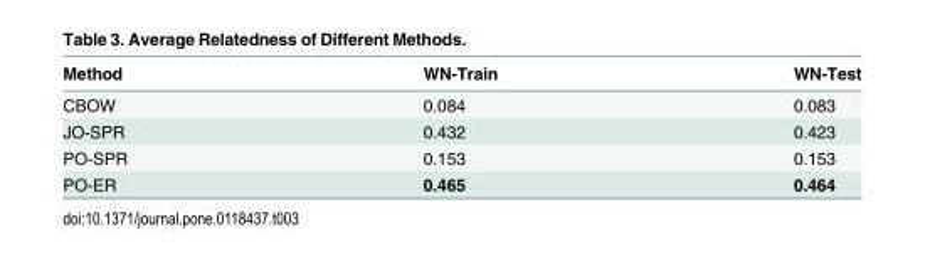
<table><thead><tr><td>Method</td><td>WN-Train</td><td>WN-Test</td></tr></thead><tbody><tr><td>CBOW</td><td>0.084</td><td>0.083</td></tr><tr><td>JO-SPR</td><td>0.432</td><td>0.423</td></tr><tr><td>PO-SPR</td><td>0.153</td><td>0.153</td></tr><tr><td>PO-ER</td><td>0.465</td><td>0.464</td></tr></tbody></table>